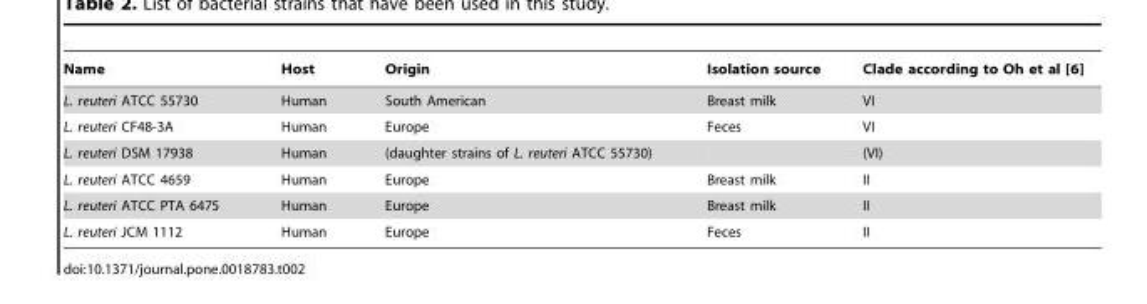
<table><thead><tr><td>Name</td><td>Host</td><td>Origin</td><td>Isolation source</td><td>Clade according to Oh et al [6]</td></tr></thead><tbody><tr><td>L. reuteri ATCC 55730</td><td>Human</td><td>South American</td><td>Breast milk</td><td>VI</td></tr><tr><td>L. reuteri CF48-3A</td><td>Human</td><td>Europe</td><td>Feces</td><td>VI</td></tr><tr><td>L. reuteri DSM 17938</td><td>Human</td><td>(daughter strains of L. reuteri ATCC 55730)</td><td></td><td>(VI)</td></tr><tr><td>L. reuteri ATCC 4659</td><td>Human</td><td>Europe</td><td>Breast milk</td><td>II</td></tr><tr><td>L. reuteri ATCC PTA 6475</td><td>Human</td><td>Europe</td><td>Breast milk</td><td>II</td></tr><tr><td>L. reuteri JCM 1112</td><td>Human</td><td>Europe</td><td>Feces</td><td>II</td></tr></tbody></table>